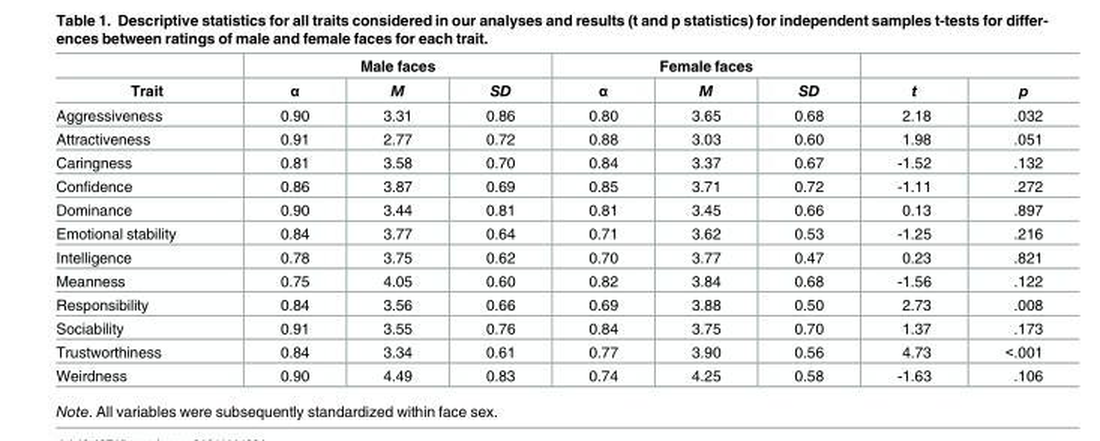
<table><thead><tr><td rowspan="2">Trait</td><td colspan="3">Male faces</td><td colspan="3">Female faces</td><td rowspan="2">t</td><td rowspan="2">p</td></tr><tr><td>α</td><td>M</td><td>SD</td><td>α</td><td>M</td><td>SD</td></tr></thead><tbody><tr><td>Aggressiveness</td><td>0.90</td><td>3.31</td><td>0.86</td><td>0.80</td><td>3.65</td><td>0.68</td><td>2.18</td><td>.032</td></tr><tr><td>Attractiveness</td><td>0.91</td><td>2.77</td><td>0.72</td><td>0.88</td><td>3.03</td><td>0.60</td><td>1.98</td><td>.051</td></tr><tr><td>Caringness</td><td>0.81</td><td>3.58</td><td>0.70</td><td>0.84</td><td>3.37</td><td>0.67</td><td>-1.52</td><td>.132</td></tr><tr><td>Confidence</td><td>0.86</td><td>3.87</td><td>0.69</td><td>0.85</td><td>3.71</td><td>0.72</td><td>-1.11</td><td>.272</td></tr><tr><td>Dominance</td><td>0.90</td><td>3.44</td><td>0.81</td><td>0.81</td><td>3.45</td><td>0.66</td><td>0.13</td><td>.897</td></tr><tr><td>Emotional stability</td><td>0.84</td><td>3.77</td><td>0.64</td><td>0.71</td><td>3.62</td><td>0.53</td><td>-1.25</td><td>.216</td></tr><tr><td>Intelligence</td><td>0.78</td><td>3.75</td><td>0.62</td><td>0.70</td><td>3.77</td><td>0.47</td><td>0.23</td><td>.821</td></tr><tr><td>Meanness</td><td>0.75</td><td>4.05</td><td>0.60</td><td>0.82</td><td>3.84</td><td>0.68</td><td>-1.56</td><td>.122</td></tr><tr><td>Responsibility</td><td>0.84</td><td>3.56</td><td>0.66</td><td>0.69</td><td>3.88</td><td>0.50</td><td>2.73</td><td>.008</td></tr><tr><td>Sociability</td><td>0.91</td><td>3.55</td><td>0.76</td><td>0.84</td><td>3.75</td><td>0.70</td><td>1.37</td><td>.173</td></tr><tr><td>Trustworthiness</td><td>0.84</td><td>3.34</td><td>0.61</td><td>0.77</td><td>3.90</td><td>0.56</td><td>4.73</td><td>&lt;.001</td></tr><tr><td>Weirdness</td><td>0.90</td><td>4.49</td><td>0.83</td><td>0.74</td><td>4.25</td><td>0.58</td><td>-1.63</td><td>.106</td></tr></tbody></table>